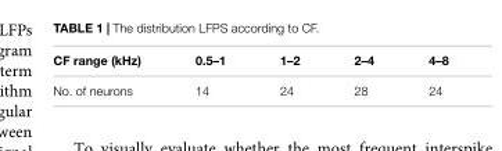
<table><thead><tr><td>CF range (kHz)</td><td>0.5–1</td><td>1–2</td><td>2–4</td><td>4–8</td></tr></thead><tbody><tr><td>No. of neurons</td><td>14</td><td>24</td><td>28</td><td>24</td></tr></tbody></table>